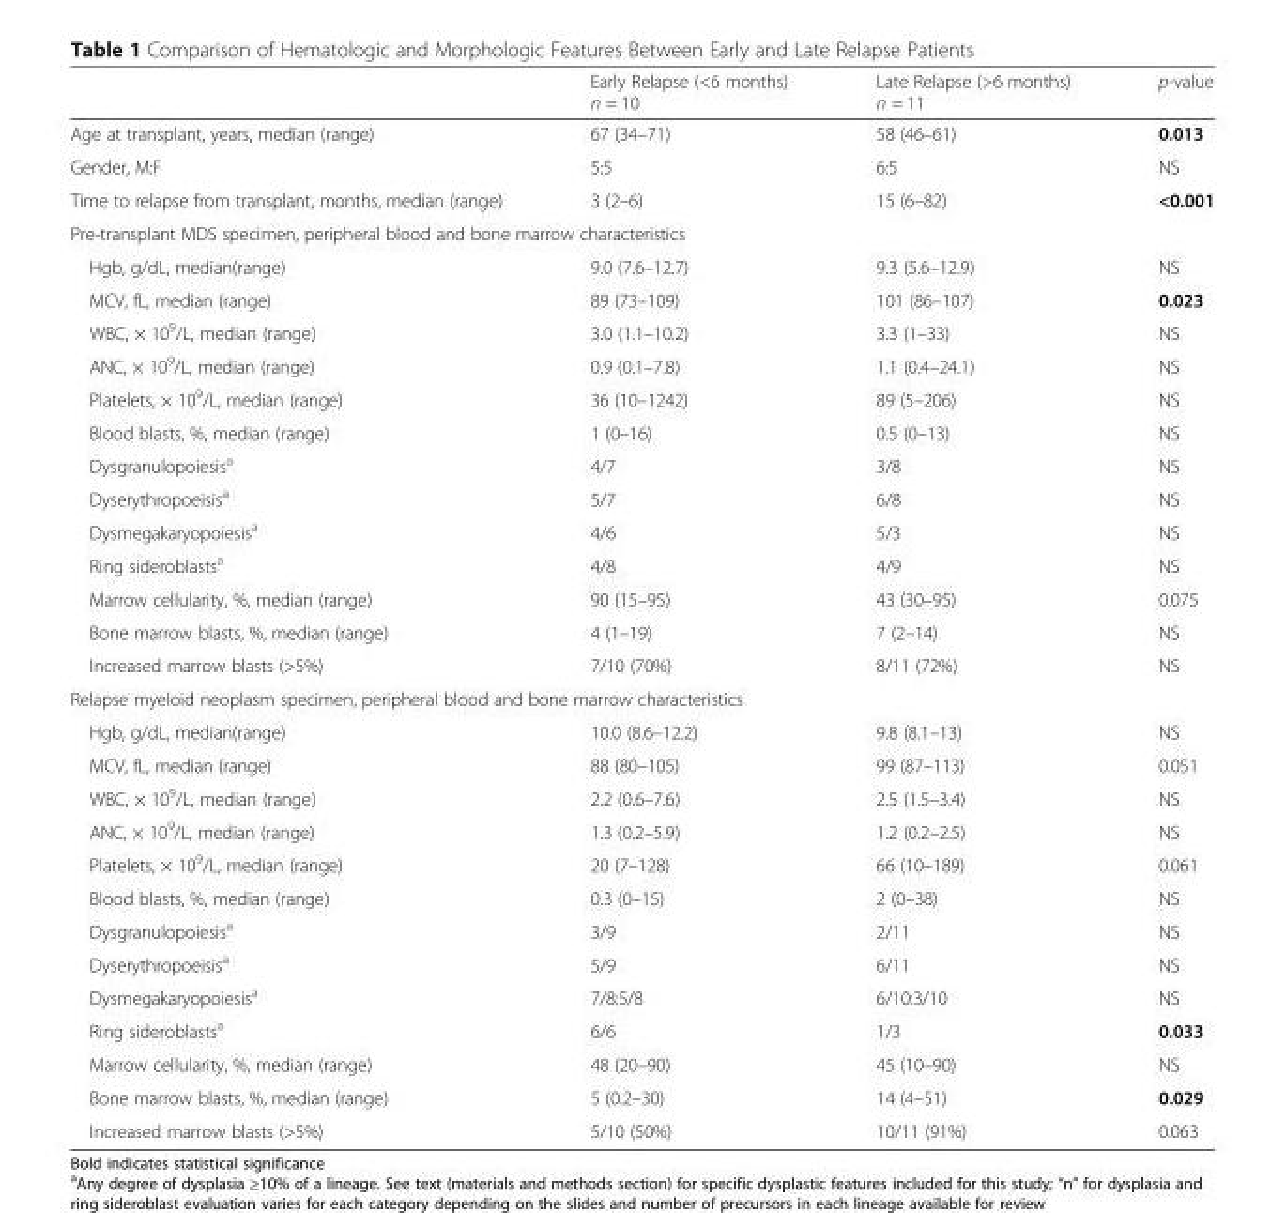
<table><thead><tr><td></td><td>Early Relapse (&lt;6 months) n = 10</td><td>Late Relapse (&gt;6 months) n = 11</td><td>p-value</td></tr></thead><tbody><tr><td>Age at transplant, years, median (range)</td><td>67 (34–71)</td><td>58 (46–61)</td><td>0.013</td></tr><tr><td>Gender, M:F</td><td>5:5</td><td>6:5</td><td>NS</td></tr><tr><td>Time to relapse from transplant, months, median (range)</td><td>3 (2–6)</td><td>15 (6–82)</td><td>&lt;0.001</td></tr><tr><td colspan="4">Pre-transplant MDS specimen, peripheral blood and bone marrow characteristics</td></tr><tr><td>Hgb, g/dL, median(range)</td><td>9.0 (7.6–12.7)</td><td>9.3 (5.6–12.9)</td><td>NS</td></tr><tr><td>MCV, fL, median (range)</td><td>89 (73–109)</td><td>101 (86–107)</td><td>0.023</td></tr><tr><td>WBC, × 10<sup>9</sup>/L, median (range)</td><td>3.0 (1.1–10.2)</td><td>3.3 (1–33)</td><td>NS</td></tr><tr><td>ANC, × 10<sup>9</sup>/L, median (range)</td><td>0.9 (0.1–7.8)</td><td>1.1 (0.4–24.1)</td><td>NS</td></tr><tr><td>Platelets, × 10<sup>9</sup>/L, median (range)</td><td>36 (10–1242)</td><td>89 (5–206)</td><td>NS</td></tr><tr><td>Blood blasts, %, median (range)</td><td>1 (0–16)</td><td>0.5 (0–13)</td><td>NS</td></tr><tr><td>Dysgranulopoiesis<sup>a</sup></td><td>4/7</td><td>3/8</td><td>NS</td></tr><tr><td>Dyserythropoeisis<sup>a</sup></td><td>5/7</td><td>6/8</td><td>NS</td></tr><tr><td>Dysmegakaryopoiesis<sup>a</sup></td><td>4/6</td><td>5/3</td><td>NS</td></tr><tr><td>Ring sideroblasts<sup>a</sup></td><td>4/8</td><td>4/9</td><td>NS</td></tr><tr><td>Marrow cellularity, %, median (range)</td><td>90 (15–95)</td><td>43 (30–95)</td><td>0.075</td></tr><tr><td>Bone marrow blasts, %, median (range)</td><td>4 (1–19)</td><td>7 (2–14)</td><td>NS</td></tr><tr><td>Increased marrow blasts (&gt;5%)</td><td>7/10 (70%)</td><td>8/11 (72%)</td><td>NS</td></tr><tr><td colspan="4">Relapse myeloid neoplasm specimen, peripheral blood and bone marrow characteristics</td></tr><tr><td>Hgb, g/dL, median(range)</td><td>10.0 (8.6–12.2)</td><td>9.8 (8.1–13)</td><td>NS</td></tr><tr><td>MCV, fL, median (range)</td><td>88 (80–105)</td><td>99 (87–113)</td><td>0.051</td></tr><tr><td>WBC, × 10<sup>9</sup>/L, median (range)</td><td>2.2 (0.6–7.6)</td><td>2.5 (1.5–3.4)</td><td>NS</td></tr><tr><td>ANC, × 10<sup>9</sup>/L, median (range)</td><td>1.3 (0.2–5.9)</td><td>1.2 (0.2–2.5)</td><td>NS</td></tr><tr><td>Platelets, × 10<sup>9</sup>/L, median (range)</td><td>20 (7–128)</td><td>66 (10–189)</td><td>0.061</td></tr><tr><td>Blood blasts, %, median (range)</td><td>0.3 (0–15)</td><td>2 (0–38)</td><td>NS</td></tr><tr><td>Dysgranulopoiesis<sup>a</sup></td><td>3/9</td><td>2/11</td><td>NS</td></tr><tr><td>Dyserythropoeisis<sup>a</sup></td><td>5/9</td><td>6/11</td><td>NS</td></tr><tr><td>Dysmegakaryopoiesis<sup>a</sup></td><td>7/8:5/8</td><td>6/10:3/10</td><td>NS</td></tr><tr><td>Ring sideroblasts<sup>a</sup></td><td>6/6</td><td>1/3</td><td>0.033</td></tr><tr><td>Marrow cellularity, %, median (range)</td><td>48 (20–90)</td><td>45 (10–90)</td><td>NS</td></tr><tr><td>Bone marrow blasts, %, median (range)</td><td>5 (0.2–30)</td><td>14 (4–51)</td><td>0.029</td></tr><tr><td>Increased marrow blasts (&gt;5%)</td><td>5/10 (50%)</td><td>10/11 (91%)</td><td>0.063</td></tr></tbody></table>